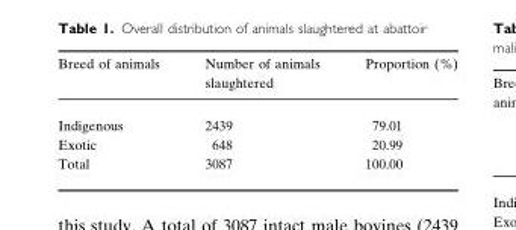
<table><thead><tr><td>Breed of animals</td><td>Number of animals slaughtered</td><td>Proportion (%)</td></tr></thead><tbody><tr><td>Indigenous</td><td>2439</td><td>79.01</td></tr><tr><td>Exotic</td><td>648</td><td>20.99</td></tr><tr><td>Total</td><td>3087</td><td>100.00</td></tr></tbody></table>